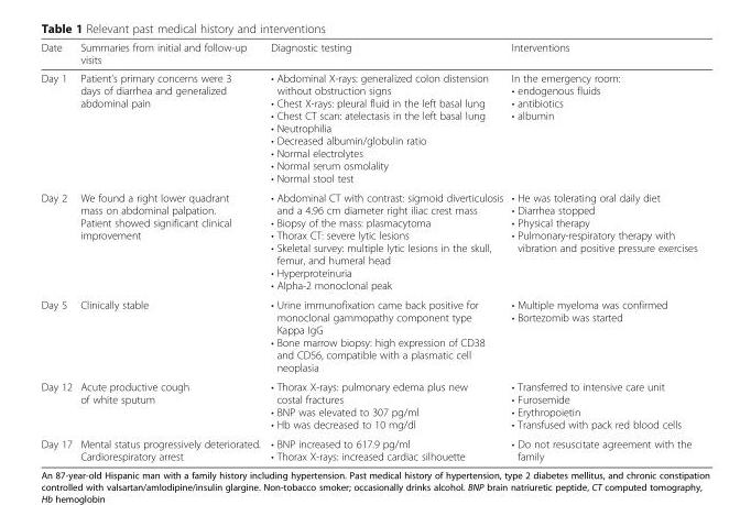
<table><thead><tr><td>Date</td><td>Summaries from initial and follow-up visits</td><td>Diagnostic testing</td><td>Interventions</td></tr></thead><tbody><tr><td>Day 1</td><td>Patient’s primary concerns were 3 days of diarrhea and generalized abdominal pain</td><td>• Abdominal X-rays: generalized colon distension without obstruction signs • Chest X-rays: pleural fluid in the left basal lung • Chest CT scan: atelectasis in the left basal lung • Neutrophilia • Decreased albumin/globulin ratio • Normal electrolytes • Normal serum osmolality • Normal stool test</td><td>In the emergency room: • endogenous fluids • antibiotics • albumin</td></tr><tr><td>Day 2</td><td>We found a right lower quadrant mass on abdominal palpation. Patient showed significant clinical improvement</td><td>• Abdominal CT with contrast: sigmoid diverticulosis and a 4.96 cm diameter right iliac crest mass • Biopsy of the mass: plasmacytoma • Thorax CT: severe lytic lesions • Skeletal survey: multiple lytic lesions in the skull, femur, and humeral head • Hyperproteinuria • Alpha-2 monoclonal peak</td><td>• He was tolerating oral daily diet • Diarrhea stopped • Physical therapy • Pulmonary-respiratory therapy with vibration and positive pressure exercises</td></tr><tr><td>Day 5</td><td>Clinically stable</td><td>• Urine immunofixation came back positive for monoclonal gammopathy component type Kappa IgG • Bone marrow biopsy: high expression of CD38 and CD56, compatible with a plasmatic cell neoplasia</td><td>• Multiple myeloma was confirmed • Bortezomib was started</td></tr><tr><td>Day 12</td><td>Acute productive cough of white sputum</td><td>• Thorax X-rays: pulmonary edema plus new costal fractures • BNP was elevated to 307 pg/ml • Hb was decreased to 10 mg/dl</td><td>• Transferred to intensive care unit • Furosemide • Erythropoietin • Transfused with pack red blood cells</td></tr><tr><td>Day 17</td><td>Mental status progressively deteriorated. Cardiorespiratory arrest</td><td>• BNP increased to 617.9 pg/ml • Thorax X-rays: increased cardiac silhouette</td><td>• Do not resuscitate agreement with the family</td></tr></tbody></table>